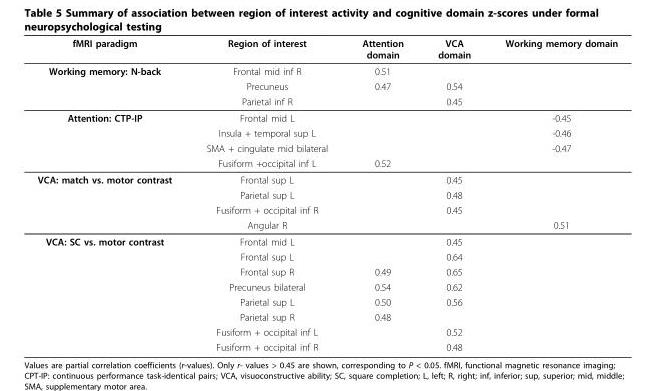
<table><thead><tr><td>fMRI paradigm</td><td>Region of interest</td><td>Attention domain</td><td>VCA domain</td><td>Working memory domain</td></tr></thead><tbody><tr><td rowspan="3">Working memory: N-back</td><td>Frontal mid inf R</td><td>0.51</td><td></td><td></td></tr><tr><td>Precuneus</td><td>0.47</td><td>0.54</td><td></td></tr><tr><td>Parietal inf R</td><td></td><td>0.45</td><td></td></tr><tr><td rowspan="4">Attention: CTP-IP</td><td>Frontal mid L</td><td></td><td></td><td>-0.45</td></tr><tr><td>Insula + temporal sup L</td><td></td><td></td><td>-0.46</td></tr><tr><td>SMA + cingulate mid bilateral</td><td></td><td></td><td>-0.47</td></tr><tr><td>Fusiform +occipital inf L</td><td>0.52</td><td></td><td></td></tr><tr><td rowspan="4">VCA: match vs. motor contrast</td><td>Frontal sup L</td><td></td><td>0.45</td><td></td></tr><tr><td>Parietal sup L</td><td></td><td>0.48</td><td></td></tr><tr><td>Fusiform + occipital inf R</td><td></td><td>0.45</td><td></td></tr><tr><td>Angular R</td><td></td><td></td><td>0.51</td></tr><tr><td rowspan="8">VCA: SC vs. motor contrast</td><td>Frontal mid L</td><td></td><td>0.45</td><td></td></tr><tr><td>Frontal sup L</td><td></td><td>0.64</td><td></td></tr><tr><td>Frontal sup R</td><td>0.49</td><td>0.65</td><td></td></tr><tr><td>Precuneus bilateral</td><td>0.54</td><td>0.62</td><td></td></tr><tr><td>Parietal sup L</td><td>0.50</td><td>0.56</td><td></td></tr><tr><td>Parietal sup R</td><td>0.48</td><td></td><td></td></tr><tr><td>Fusiform + occipital inf L</td><td></td><td>0.52</td><td></td></tr><tr><td>Fusiform + occipital inf R</td><td></td><td>0.48</td><td></td></tr></tbody></table>